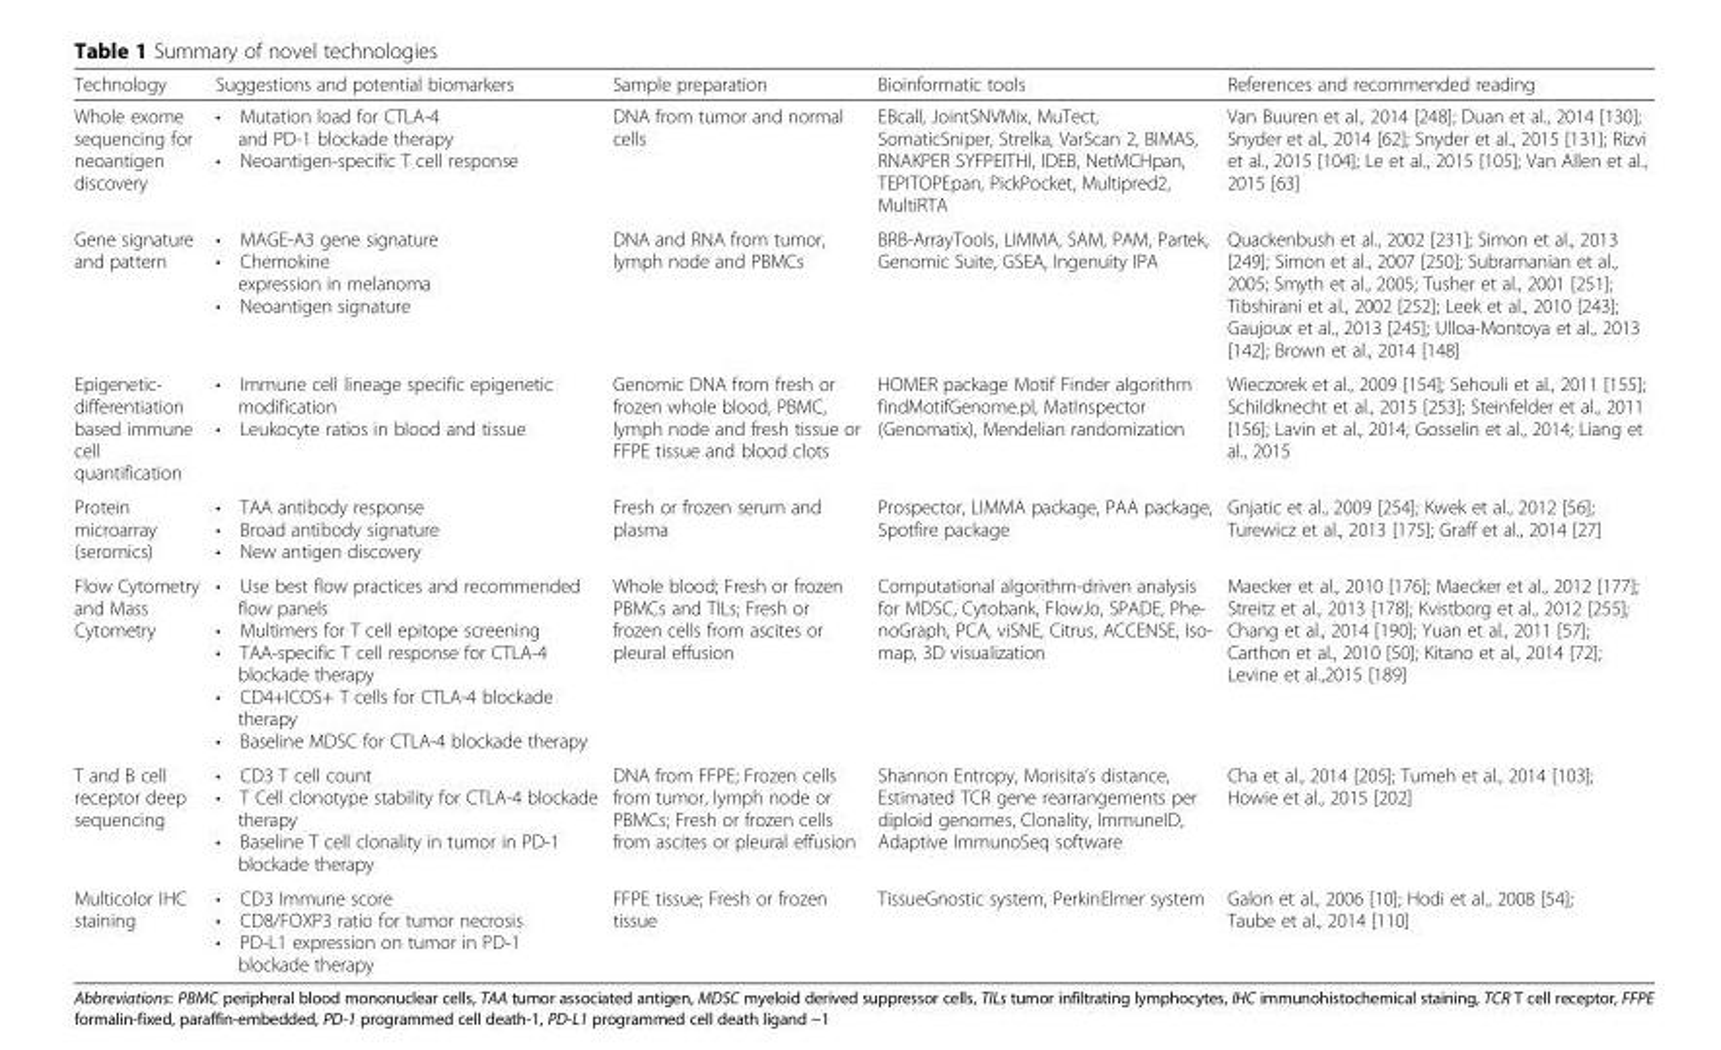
<table><thead><tr><td>Technology</td><td>Suggestions and potential biomarkers</td><td>Sample preparation</td><td>Bioinformatic tools</td><td>References and recommended reading</td></tr></thead><tbody><tr><td>Whole exome sequencing for neoantigen discovery</td><td>• Mutation load for CTLA-4 and PD-1 blockade therapy • Neoantigen-specific T cell response</td><td>DNA from tumor and normal cells</td><td>EBcall, JointSNVMix, MuTect, SomaticSniper, Strelka, VarScan 2, BIMAS, RNAKPER SYFPEITHI, IDEB, NetMCHpan, TEPITOPEpan, PickPocket, Multipred2, MultiRTA</td><td>Van Buuren et al., 2014 [248]; Duan et al., 2014 [130]; Snyder et al., 2014 [62]; Snyder et al., 2015 [131]; Rizvi et al., 2015 [104]; Le et al., 2015 [105]; Van Allen et al., 2015 [63]</td></tr><tr><td>Gene signature and pattern</td><td>• MAGE-A3 gene signature • Chemokine expression in melanoma • Neoantigen signature</td><td>DNA and RNA from tumor, lymph node and PBMCs</td><td>BRB-ArrayTools, LIMMA, SAM, PAM, Partek, Genomic Suite, GSEA, Ingenuity IPA</td><td>Quackenbush et al., 2002 [231]; Simon et al., 2013 [249]; Simon et al., 2007 [250]; Subramanian et al., 2005; Smyth et al., 2005; Tusher et al., 2001 [251]; Tibshirani et al., 2002 [252]; Leek et al., 2010 [243]; Gaujoux et al., 2013 [245]; Ulloa-Montoya et al., 2013 [142]; Brown et al., 2014 [148]</td></tr><tr><td>Epigenetic- differentiation based immune cell quantification</td><td>• Immune cell lineage specific epigenetic modification • Leukocyte ratios in blood and tissue</td><td>Genomic DNA from fresh or frozen whole blood, PBMC, lymph node and fresh tissue or FFPE tissue and blood clots</td><td>HOMER package Motif Finder algorithm findMotifGenome.pl, MatInspector (Genomatix), Mendelian randomization</td><td>Wieczorek et al., 2009 [154]; Sehouli et al., 2011 [155]; Schildknecht et al., 2015 [253]; Steinfelder et al., 2011 [156]; Lavin et al., 2014; Gosselin et al., 2014; Liang et al., 2015</td></tr><tr><td>Protein microarray (seromics)</td><td>• TAA antibody response • Broad antibody signature • New antigen discovery</td><td>Fresh or frozen serum and plasma</td><td>Prospector, LIMMA package, PAA package, Spotfire package</td><td>Gnjatic et al., 2009 [254]; Kwek et al., 2012 [56]; Turewicz et al., 2013 [175]; Graff et al., 2014 [27]</td></tr><tr><td>Flow Cytometry and Mass Cytometry</td><td>• Use best flow practices and recommended flow panels • Multimers for T cell epitope screening • TAA-specific T cell response for CTLA-4 blockade therapy • CD4+ICOS+ T cells for CTLA-4 blockade therapy • Baseline MDSC for CTLA-4 blockade therapy</td><td>Whole blood; Fresh or frozen PBMCs and TILs; Fresh or frozen cells from ascites or pleural effusion</td><td>Computational algorithm-driven analysis for MDSC, Cytobank, FlowJo, SPADE, Phe- noGraph, PCA, viSNE, Citrus, ACCENSE, Iso- map, 3D visualization</td><td>Maecker et al., 2010 [176]; Maecker et al., 2012 [177]; Streitz et al., 2013 [178]; Kvistborg et al., 2012 [255]; Chang et al., 2014 [190]; Yuan et al., 2011 [57]; Carthon et al., 2010 [50]; Kitano et al., 2014 [72]; Levine et al.,2015 [189]</td></tr><tr><td>T and B cell receptor deep sequencing</td><td>• CD3 T cell count • T Cell clonotype stability for CTLA-4 blockade therapy • Baseline T cell clonality in tumor in PD-1 blockade therapy</td><td>DNA from FFPE; Frozen cells from tumor, lymph node or PBMCs; Fresh or frozen cells from ascites or pleural effusion</td><td>Shannon Entropy, Morisita’s distance, Estimated TCR gene rearrangements per diploid genomes, Clonality, ImmuneID, Adaptive ImmunoSeq software</td><td>Cha et al., 2014 [205]; Tumeh et al., 2014 [103]; Howie et al., 2015 [202]</td></tr><tr><td>Multicolor IHC staining</td><td>• CD3 Immune score • CD8/FOXP3 ratio for tumor necrosis • PD-L1 expression on tumor in PD-1 blockade therapy</td><td>FFPE tissue; Fresh or frozen tissue</td><td>TissueGnostic system, PerkinElmer system</td><td>Galon et al., 2006 [10]; Hodi et al., 2008 [54]; Taube et al., 2014 [110]</td></tr></tbody></table>